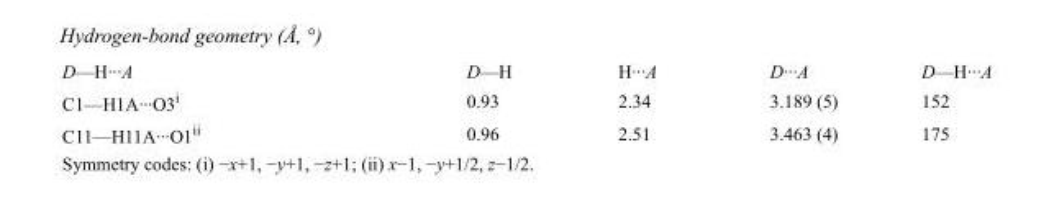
<table><tbody><tr><td>D—H···A</td><td>D—H</td><td>H···A</td><td>D···A</td><td>D—H···A</td></tr><tr><td>C1—H1A···O3<sup>i</sup></td><td>0.93</td><td>2.34</td><td>3.189 (5)</td><td>152</td></tr><tr><td>C11—H11A···O1<sup>ii</sup></td><td>0.96</td><td>2.51</td><td>3.463 (4)</td><td>175</td></tr></tbody></table>